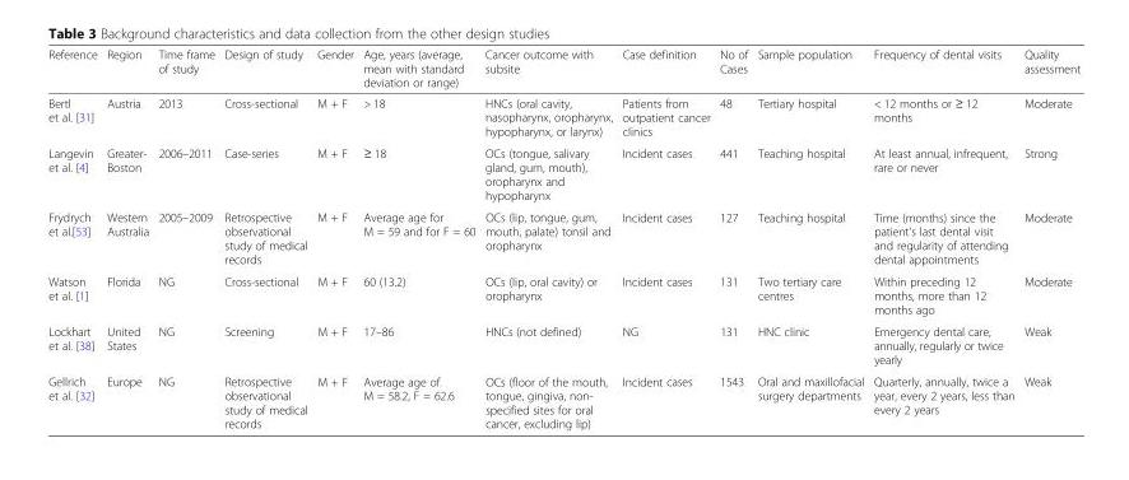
<table><thead><tr><td>Reference</td><td>Region</td><td>Time frame of study</td><td>Design of study</td><td>Gender</td><td>Age, years (average, mean with standard deviation or range)</td><td>Cancer outcome with subsite</td><td>Case definition</td><td>No of Cases</td><td>Sample population</td><td>Frequency of dental visits</td><td>Quality assessment</td></tr></thead><tbody><tr><td>Bertl et al. [31]</td><td>Austria</td><td>2013</td><td>Cross-sectional</td><td>M + F</td><td>&gt; 18</td><td>HNCs (oral cavity, nasopharynx, oropharynx, hypopharynx, or larynx)</td><td>Patients from outpatient cancer clinics</td><td>48</td><td>Tertiary hospital</td><td>&lt; 12 months or ≥ 12 months</td><td>Moderate</td></tr><tr><td>Langevin et al. [4]</td><td>Greater- Boston</td><td>2006–2011</td><td>Case-series</td><td>M + F</td><td>≥ 18</td><td>OCs (tongue, salivary gland, gum, mouth), oropharynx and hypopharynx</td><td>Incident cases</td><td>441</td><td>Teaching hospital</td><td>At least annual, infrequent, rare or never</td><td>Strong</td></tr><tr><td>Frydrych et al.[53]</td><td>Western Australia</td><td>2005–2009</td><td>Retrospective observational study of medical records</td><td>M + F</td><td>Average age for M = 59 and for F = 60</td><td>OCs (lip, tongue, gum, mouth, palate) tonsil and oropharynx</td><td>Incident cases</td><td>127</td><td>Teaching hospital</td><td>Time (months) since the patient’s last dental visit and regularity of attending dental appointments</td><td>Moderate</td></tr><tr><td>Watson et al. [1]</td><td>Florida</td><td>NG</td><td>Cross-sectional</td><td>M + F</td><td>60 (13.2)</td><td>OCs (lip, oral cavity) or oropharynx</td><td>Incident cases</td><td>131</td><td>Two tertiary care centres</td><td>Within preceding 12 months, more than 12 months ago</td><td>Moderate</td></tr><tr><td>Lockhart et al. [38]</td><td>United States</td><td>NG</td><td>Screening</td><td>M + F</td><td>17–86</td><td>HNCs (not defined)</td><td>NG</td><td>131</td><td>HNC clinic</td><td>Emergency dental care, annually, regularly or twice yearly</td><td>Weak</td></tr><tr><td>Gellrich et al. [32]</td><td>Europe</td><td>NG</td><td>Retrospective observational study of medical records</td><td>M + F</td><td>Average age of M = 58.2, F = 62.6</td><td>OCs (floor of the mouth, tongue, gingiva, non- specified sites for oral cancer, excluding lip)</td><td>Incident cases</td><td>1543</td><td>Oral and maxillofacial surgery departments</td><td>Quarterly, annually, twice a year, every 2 years, less than every 2 years</td><td>Weak</td></tr></tbody></table>